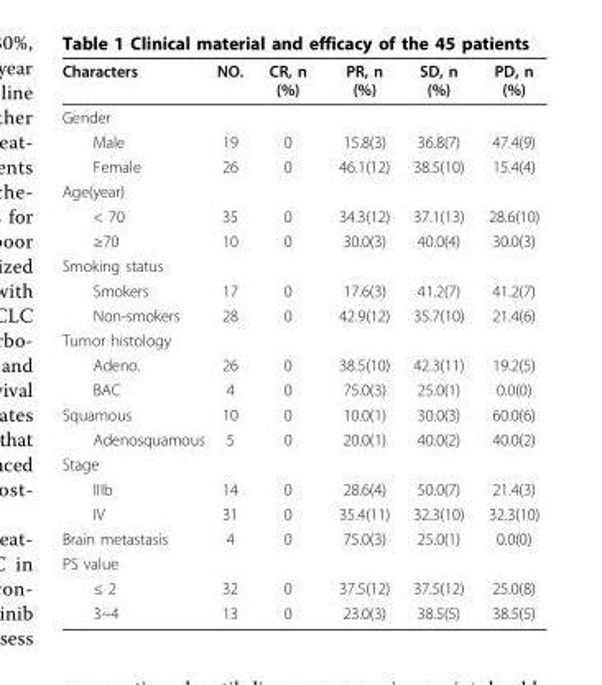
<table><thead><tr><td>Characters</td><td>NO.</td><td>CR, n (%)</td><td>PR, n (%)</td><td>SD, n (%)</td><td>PD, n (%)</td></tr></thead><tbody><tr><td colspan="6">Gender</td></tr><tr><td>Male</td><td>19</td><td>0</td><td>15.8(3)</td><td>36.8(7)</td><td>47.4(9)</td></tr><tr><td>Female</td><td>26</td><td>0</td><td>46.1(12)</td><td>38.5(10)</td><td>15.4(4)</td></tr><tr><td colspan="6">Age(year)</td></tr><tr><td>&lt; 70</td><td>35</td><td>0</td><td>34.3(12)</td><td>37.1(13)</td><td>28.6(10)</td></tr><tr><td>≥70</td><td>10</td><td>0</td><td>30.0(3)</td><td>40.0(4)</td><td>30.0(3)</td></tr><tr><td colspan="6">Smoking status</td></tr><tr><td>Smokers</td><td>17</td><td>0</td><td>17.6(3)</td><td>41.2(7)</td><td>41.2(7)</td></tr><tr><td>Non-smokers</td><td>28</td><td>0</td><td>42.9(12)</td><td>35.7(10)</td><td>21.4(6)</td></tr><tr><td colspan="6">Tumor histology</td></tr><tr><td>Adeno.</td><td>26</td><td>0</td><td>38.5(10)</td><td>42.3(11)</td><td>19.2(5)</td></tr><tr><td>BAC</td><td>4</td><td>0</td><td>75.0(3)</td><td>25.0(1)</td><td>0.0(0)</td></tr><tr><td>Squamous</td><td>10</td><td>0</td><td>10.0(1)</td><td>30.0(3)</td><td>60.0(6)</td></tr><tr><td>Adenosquamous</td><td>5</td><td>0</td><td>20.0(1)</td><td>40.0(2)</td><td>40.0(2)</td></tr><tr><td colspan="6">Stage</td></tr><tr><td>IIIb</td><td>14</td><td>0</td><td>28.6(4)</td><td>50.0(7)</td><td>21.4(3)</td></tr><tr><td>IV</td><td>31</td><td>0</td><td>35.4(11)</td><td>32.3(10)</td><td>32.3(10)</td></tr><tr><td>Brain metastasis</td><td>4</td><td>0</td><td>75.0(3)</td><td>25.0(1)</td><td>0.0(0)</td></tr><tr><td colspan="6">PS value</td></tr><tr><td>≤ 2</td><td>32</td><td>0</td><td>37.5(12)</td><td>37.5(12)</td><td>25.0(8)</td></tr><tr><td>3~4</td><td>13</td><td>0</td><td>23.0(3)</td><td>38.5(5)</td><td>38.5(5)</td></tr></tbody></table>